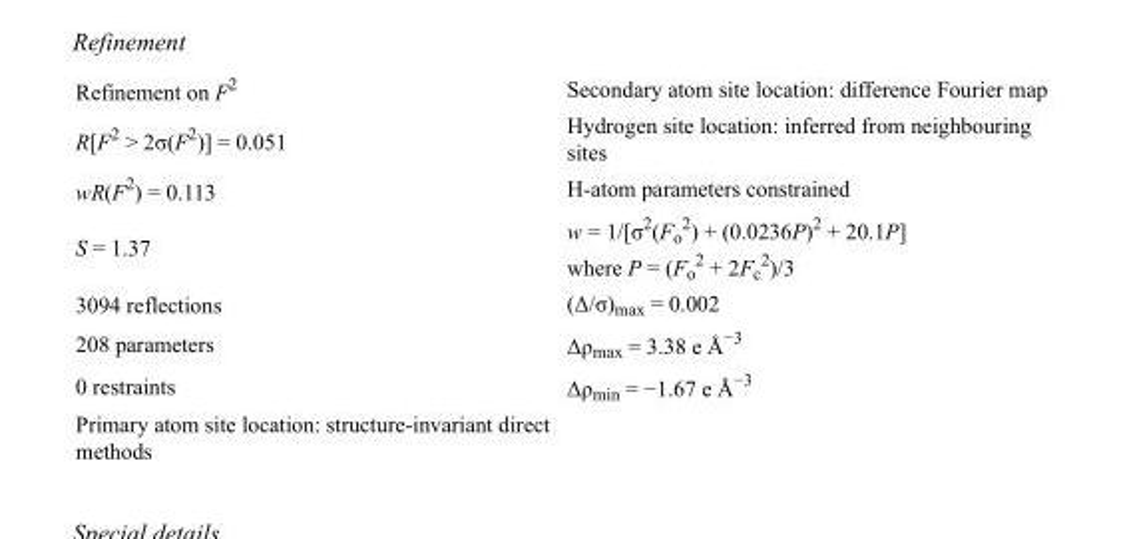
<table><tbody><tr><td>Refinement on F<sup>2</sup></td><td>Secondary atom site location: difference Fourier map</td></tr><tr><td>R[F<sup>2</sup> &gt; 2σ(F<sup>2</sup>)] = 0.051</td><td>Hydrogen site location: inferred from neighbouring sites</td></tr><tr><td>wR(F<sup>2</sup>) = 0.113</td><td>H-atom parameters constrained</td></tr><tr><td>S = 1.37</td><td>w = 1/[σ<sup>2</sup>(F<sub>o</sub> <sup>2</sup>) + (0.0236P)<sup>2</sup> + 20.1P] where P = (F<sub>o</sub> <sup>2</sup> + 2F<sub>c</sub> <sup>2</sup>)/3</td></tr><tr><td>3094 reflections</td><td>(Δ/σ)<sub>max</sub> = 0.002</td></tr><tr><td>208 parameters</td><td>Δρ<sub>max</sub> = 3.38 e Å<sup>−3</sup></td></tr><tr><td>0 restraints</td><td>Δρ<sub>min</sub> = −1.67 e Å<sup>−3</sup></td></tr><tr><td>Primary atom site location: structure-invariant direct methods</td><td></td></tr></tbody></table>